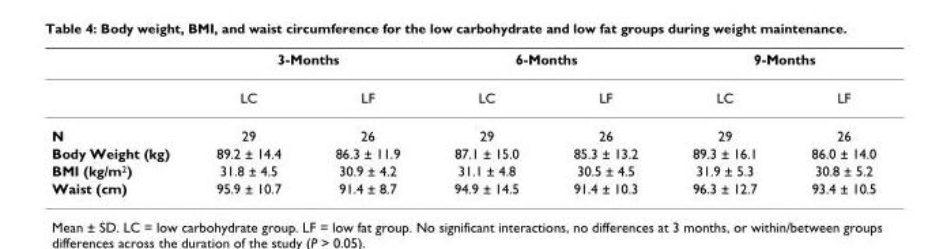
<table><thead><tr><td rowspan="2"></td><td colspan="2">3-Months</td><td colspan="2">6-Months</td><td colspan="2">9-Months</td></tr><tr><td>LC</td><td>LF</td><td>LC</td><td>LF</td><td>LC</td><td>LF</td></tr></thead><tbody><tr><td>N</td><td>29</td><td>26</td><td>29</td><td>26</td><td>29</td><td>26</td></tr><tr><td>Body Weight (kg)</td><td>89.2 ± 14.4</td><td>86.3 ± 11.9</td><td>87.1 ± 15.0</td><td>85.3 ± 13.2</td><td>89.3 ± 16.1</td><td>86.0 ± 14.0</td></tr><tr><td>BMI (kg/m<sup>2</sup>)</td><td>31.8 ± 4.5</td><td>30.9 ± 4.2</td><td>31.1 ± 4.8</td><td>30.5 ± 4.5</td><td>31.9 ± 5.3</td><td>30.8 ± 5.2</td></tr><tr><td>Waist (cm)</td><td>95.9 ± 10.7</td><td>91.4 ± 8.7</td><td>94.9 ± 14.5</td><td>91.4 ± 10.3</td><td>96.3 ± 12.7</td><td>93.4 ± 10.5</td></tr></tbody></table>